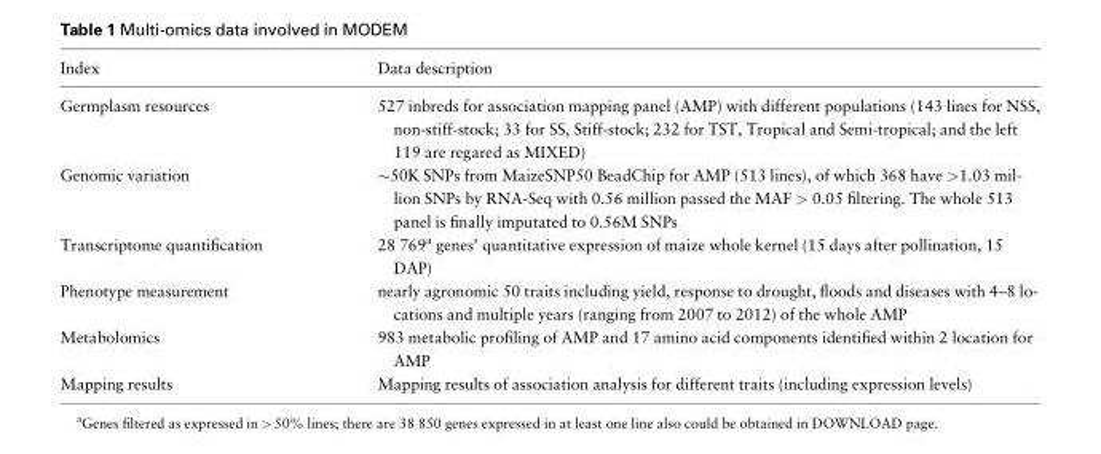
<table><thead><tr><td>Index</td><td>Data description</td></tr></thead><tbody><tr><td>Germplasm resources</td><td>527 inbreds for association mapping panel (AMP) with different populations (143 lines for NSS, non-stiff-stock; 33 for SS, Stiff-stock; 232 for TST, Tropical and Semi-tropical; and the left 119 are regared as MIXED)</td></tr><tr><td>Genomic variation</td><td>�50K SNPs from MaizeSNP50 BeadChip for AMP (513 lines), of which 368 have &gt;1.03 mil- lion SNPs by RNA-Seq with 0.56 million passed the MAF &gt; 0.05 filtering. The whole 513 panel is finally imputated to 0.56M SNPs</td></tr><tr><td>Transcriptome quantification</td><td>28 769<sup>a</sup> genes’ quantitative expression of maize whole kernel (15 days after pollination, 15 DAP)</td></tr><tr><td>Phenotype measurement</td><td>nearly agronomic 50 traits including yield, response to drought, floods and diseases with 4–8 lo- cations and multiple years (ranging from 2007 to 2012) of the whole AMP</td></tr><tr><td>Metabolomics</td><td>983 metabolic profiling of AMP and 17 amino acid components identified within 2 location for AMP</td></tr><tr><td>Mapping results</td><td>Mapping results of association analysis for different traits (including expression levels)</td></tr></tbody></table>